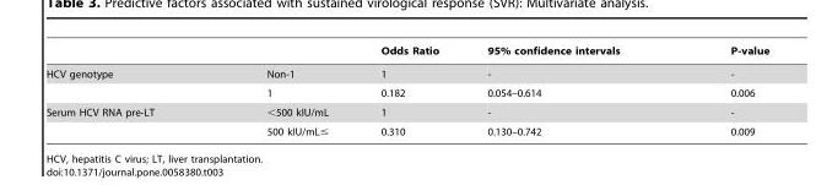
<table><thead><tr><td></td><td></td><td>Odds Ratio</td><td>95% confidence intervals</td><td>P-value</td></tr></thead><tbody><tr><td rowspan="2">HCV genotype</td><td>Non-1</td><td>1</td><td>-</td><td>-</td></tr><tr><td>1</td><td>0.182</td><td>0.054–0.614</td><td>0.006</td></tr><tr><td rowspan="2">Serum HCV RNA pre-LT</td><td>&lt;500 kIU/mL</td><td>1</td><td>-</td><td>-</td></tr><tr><td>500 kIU/mL≤</td><td>0.310</td><td>0.130–0.742</td><td>0.009</td></tr></tbody></table>